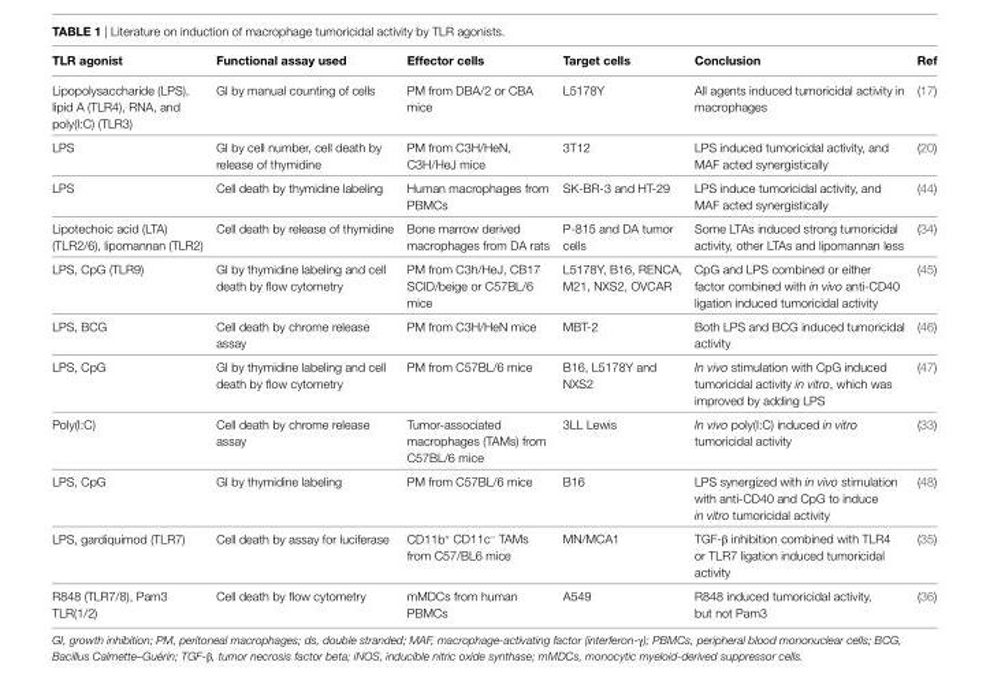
<table><thead><tr><td>Tlr agonist</td><td>Functional assay used</td><td>effector cells</td><td>Target cells</td><td>conclusion</td><td>ref</td></tr></thead><tbody><tr><td>Lipopolysaccharide (LPS), lipid A (TLR4), RNA, and poly(I:C) (TLR3)</td><td>GI by manual counting of cells</td><td>PM from DBA/2 or CBA mice</td><td>L5178Y</td><td>All agents induced tumoricidal activity in macrophages</td><td>(17)</td></tr><tr><td>LPS</td><td>GI by cell number, cell death by release of thymidine</td><td>PM from C3H/HeN, C3H/HeJ mice</td><td>3T12</td><td>LPS induced tumoricidal activity, and MAF acted synergistically</td><td>(20)</td></tr><tr><td>LPS</td><td>Cell death by thymidine labeling</td><td>Human macrophages from PBMCs</td><td>SK-BR-3 and HT-29</td><td>LPS induce tumoricidal activity, and MAF acted synergistically</td><td>(44)</td></tr><tr><td>Lipotechoic acid (LTA) (TLR2/6), lipomannan (TLR2)</td><td>Cell death by release of thymidine</td><td>Bone marrow derived macrophages from DA rats</td><td>P-815 and DA tumor cells</td><td>Some LTAs induced strong tumoricidal activity, other LTAs and lipomannan less</td><td>(34)</td></tr><tr><td>LPS, CpG (TLR9)</td><td>GI by thymidine labeling and cell death by flow cytometry</td><td>PM from C3h/HeJ, CB17 SCID/beige or C57BL/6 mice</td><td>L5178Y, B16, RENCA, M21, NXS2, OVCAR</td><td>CpG and LPS combined or either factor combined with in vivo anti-CD40 ligation induced tumoricidal activity</td><td>(45)</td></tr><tr><td>LPS, BCG</td><td>Cell death by chrome release assay</td><td>PM from C3H/HeN mice</td><td>MBT-2</td><td>Both LPS and BCG induced tumoricidal activity</td><td>(46)</td></tr><tr><td>LPS, CpG</td><td>GI by thymidine labeling and cell death by flow cytometry</td><td>PM from C57BL/6 mice</td><td>B16, L5178Y and NXS2</td><td>In vivo stimulation with CpG induced tumoricidal activity in vitro, which was improved by adding LPS</td><td>(47)</td></tr><tr><td>Poly(I:C)</td><td>Cell death by chrome release assay</td><td>Tumor-associated macrophages (TAMs) from C57BL/6 mice</td><td>3LL Lewis</td><td>In vivo poly(I:C) induced in vitro tumoricidal activity</td><td>(33)</td></tr><tr><td>LPS, CpG</td><td>GI by thymidine labeling</td><td>PM from C57BL/6 mice</td><td>B16</td><td>LPS synergized with in vivo stimulation with anti-CD40 and CpG to induce in vitro tumoricidal activity</td><td>(48)</td></tr><tr><td>LPS, gardiquimod (TLR7)</td><td>Cell death by assay for luciferase</td><td>CD11b<sup>+</sup> CD11c<sup>−</sup> TAMs from C57/BL6 mice</td><td>MN/MCA1</td><td>TGF-β inhibition combined with TLR4 or TLR7 ligation induced tumoricidal activity</td><td>(35)</td></tr><tr><td>R848 (TLR7/8), Pam3 TLR(1/2)</td><td>Cell death by flow cytometry</td><td>mMDCs from human PBMCs</td><td>A549</td><td>R848 induced tumoricidal activity, but not Pam3</td><td>(36)</td></tr></tbody></table>